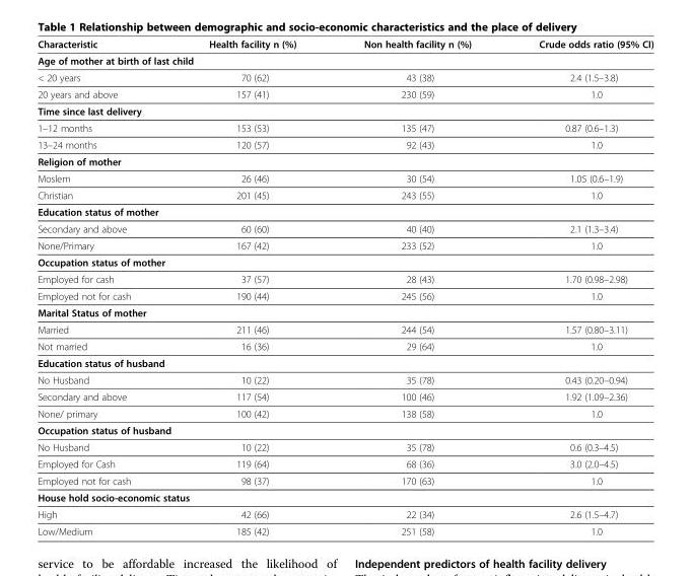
<table><thead><tr><td>Characteristic</td><td>Health facility n (%)</td><td>Non health facility n (%)</td><td>Crude odds ratio (95% CI)</td></tr></thead><tbody><tr><td colspan="4">Age of mother at birth of last child</td></tr><tr><td>&lt; 20 years</td><td>70 (62)</td><td>43 (38)</td><td>2.4 (1.5–3.8)</td></tr><tr><td>20 years and above</td><td>157 (41)</td><td>230 (59)</td><td>1.0</td></tr><tr><td colspan="4">Time since last delivery</td></tr><tr><td>1–12 months</td><td>153 (53)</td><td>135 (47)</td><td>0.87 (0.6–1.3)</td></tr><tr><td>13–24 months</td><td>120 (57)</td><td>92 (43)</td><td>1.0</td></tr><tr><td colspan="4">Religion of mother</td></tr><tr><td>Moslem</td><td>26 (46)</td><td>30 (54)</td><td>1.05 (0.6–1.9)</td></tr><tr><td>Christian</td><td>201 (45)</td><td>243 (55)</td><td>1.0</td></tr><tr><td colspan="4">Education status of mother</td></tr><tr><td>Secondary and above</td><td>60 (60)</td><td>40 (40)</td><td>2.1 (1.3–3.4)</td></tr><tr><td>None/Primary</td><td>167 (42)</td><td>233 (52)</td><td>1.0</td></tr><tr><td colspan="4">Occupation status of mother</td></tr><tr><td>Employed for cash</td><td>37 (57)</td><td>28 (43)</td><td>1.70 (0.98–2.98)</td></tr><tr><td>Employed not for cash</td><td>190 (44)</td><td>245 (56)</td><td>1.0</td></tr><tr><td colspan="4">Marital Status of mother</td></tr><tr><td>Married</td><td>211 (46)</td><td>244 (54)</td><td>1.57 (0.80–3.11)</td></tr><tr><td>Not married</td><td>16 (36)</td><td>29 (64)</td><td>1.0</td></tr><tr><td colspan="4">Education status of husband</td></tr><tr><td>No Husband</td><td>10 (22)</td><td>35 (78)</td><td>0.43 (0.20–0.94)</td></tr><tr><td>Secondary and above</td><td>117 (54)</td><td>100 (46)</td><td>1.92 (1.09–2.36)</td></tr><tr><td>None/ primary</td><td>100 (42)</td><td>138 (58)</td><td>1.0</td></tr><tr><td colspan="4">Occupation status of husband</td></tr><tr><td>No Husband</td><td>10 (22)</td><td>35 (78)</td><td>0.6 (0.3–4.5)</td></tr><tr><td>Employed for Cash</td><td>119 (64)</td><td>68 (36)</td><td>3.0 (2.0–4.5)</td></tr><tr><td>Employed not for cash</td><td>98 (37)</td><td>170 (63)</td><td>1.0</td></tr><tr><td colspan="4">House hold socio-economic status</td></tr><tr><td>High</td><td>42 (66)</td><td>22 (34)</td><td>2.6 (1.5–4.7)</td></tr><tr><td>Low/Medium</td><td>185 (42)</td><td>251 (58)</td><td>1.0</td></tr></tbody></table>